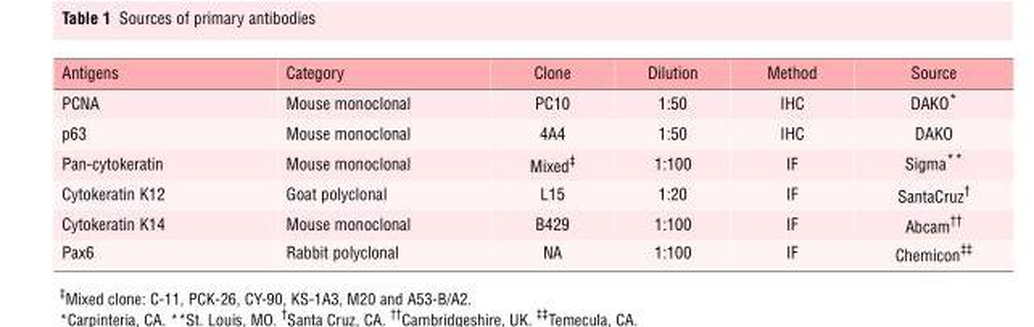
<table><thead><tr><td>Antigens</td><td>Category</td><td>Clone</td><td>Dilution</td><td>Method</td><td>Source</td></tr></thead><tbody><tr><td>PCNA</td><td>Mouse monoclonal</td><td>PC10</td><td>1:50</td><td>IHC</td><td>DAKO*</td></tr><tr><td>p63</td><td>Mouse monoclonal</td><td>4A4</td><td>1:50</td><td>IHC</td><td>DAKO</td></tr><tr><td>Pan-cytokeratin</td><td>Mouse monoclonal</td><td>Mixed‡</td><td>1:100</td><td>IF</td><td>Sigma**</td></tr><tr><td>Cytokeratin K12</td><td>Goat polyclonal</td><td>L15</td><td>1:20</td><td>IF</td><td>SantaCruz<sup>†</sup></td></tr><tr><td>Cytokeratin K14</td><td>Mouse monoclonal</td><td>B429</td><td>1:100</td><td>IF</td><td>Abcam<sup>††</sup></td></tr><tr><td>Pax6</td><td>Rabbit polyclonal</td><td>NA</td><td>1:100</td><td>IF</td><td>Chemicon<sup>‡‡</sup></td></tr></tbody></table>